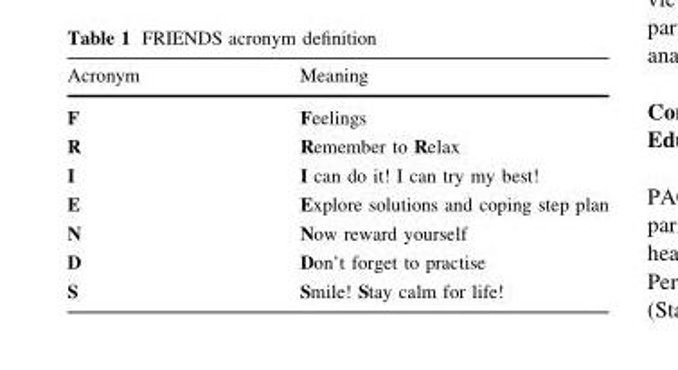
<table><thead><tr><td>Acronym</td><td>Meaning</td></tr></thead><tbody><tr><td>F</td><td>Feelings</td></tr><tr><td>R</td><td>Remember to Relax</td></tr><tr><td>I</td><td>I can do it! I can try my best!</td></tr><tr><td>E</td><td>Explore solutions and coping step plan</td></tr><tr><td>N</td><td>Now reward yourself</td></tr><tr><td>D</td><td>Don’t forget to practise</td></tr><tr><td>S</td><td>Smile! Stay calm for life!</td></tr></tbody></table>